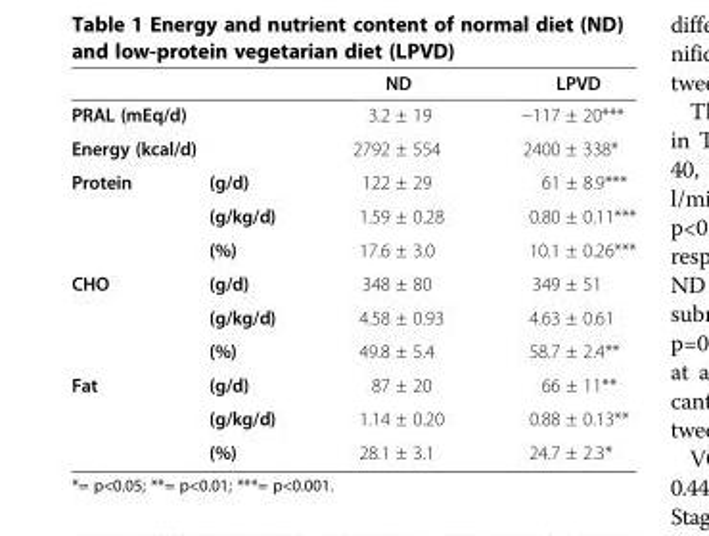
<table><thead><tr><td></td><td></td><td>ND</td><td>LPVD</td></tr></thead><tbody><tr><td colspan="2">PRAL (mEq/d)</td><td>3.2 ± 19</td><td>−117 ± 20***</td></tr><tr><td colspan="2">Energy (kcal/d)</td><td>2792 ± 554</td><td>2400 ± 338*</td></tr><tr><td rowspan="3">Protein</td><td>(g/d)</td><td>122 ± 29</td><td>61 ± 8.9***</td></tr><tr><td>(g/kg/d)</td><td>1.59 ± 0.28</td><td>0.80 ± 0.11***</td></tr><tr><td>(%)</td><td>17.6 ± 3.0</td><td>10.1 ± 0.26***</td></tr><tr><td rowspan="3">CHO</td><td>(g/d)</td><td>348 ± 80</td><td>349 ± 51</td></tr><tr><td>(g/kg/d)</td><td>4.58 ± 0.93</td><td>4.63 ± 0.61</td></tr><tr><td>(%)</td><td>49.8 ± 5.4</td><td>58.7 ± 2.4**</td></tr><tr><td rowspan="3">Fat</td><td>(g/d)</td><td>87 ± 20</td><td>66 ± 11**</td></tr><tr><td>(g/kg/d)</td><td>1.14 ± 0.20</td><td>0.88 ± 0.13**</td></tr><tr><td>(%)</td><td>28.1 ± 3.1</td><td>24.7 ± 2.3*</td></tr></tbody></table>